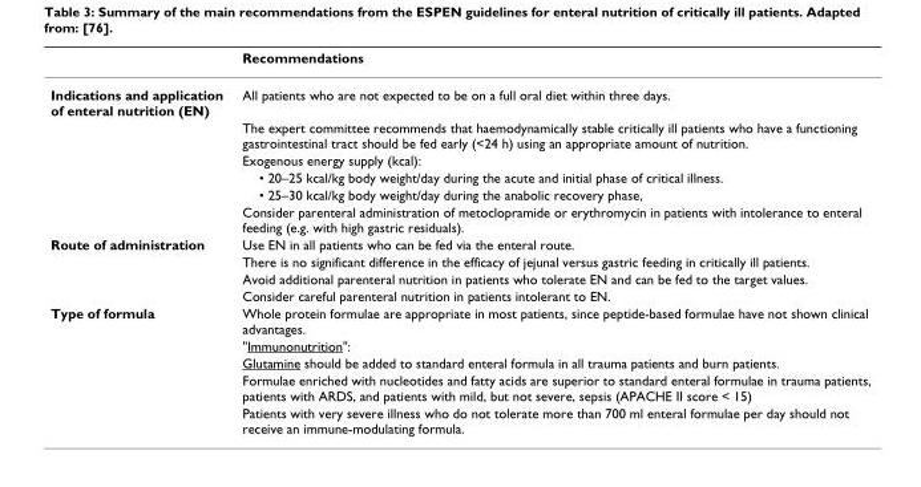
<table><thead><tr><td></td><td>Recommendations</td></tr></thead><tbody><tr><td rowspan="6">Indications and application of enteral nutrition (EN)</td><td>All patients who are not expected to be on a full oral diet within three days.</td></tr><tr><td>The expert committee recommends that haemodynamically stable critically ill patients who have a functioning gastrointestinal tract should be fed early (&lt;24 h) using an appropriate amount of nutrition.</td></tr><tr><td>Exogenous energy supply (kcal):</td></tr><tr><td>• 20–25 kcal/kg body weight/day during the acute and initial phase of critical illness.</td></tr><tr><td>• 25–30 kcal/kg body weight/day during the anabolic recovery phase,</td></tr><tr><td>Consider parenteral administration of metoclopramide or erythromycin in patients with intolerance to enteral feeding (e.g. with high gastric residuals).</td></tr><tr><td rowspan="4">Route of administration</td><td>Use EN in all patients who can be fed via the enteral route.</td></tr><tr><td>There is no significant difference in the efficacy of jejunal versus gastric feeding in critically ill patients.</td></tr><tr><td>Avoid additional parenteral nutrition in patients who tolerate EN and can be fed to the target values.</td></tr><tr><td>Consider careful parenteral nutrition in patients intolerant to EN.</td></tr><tr><td rowspan="5">Type of formula</td><td>Whole protein formulae are appropriate in most patients, since peptide-based formulae have not shown clinical advantages.</td></tr><tr><td>&quot;Immunonutrition&quot;:</td></tr><tr><td>Glutamine should be added to standard enteral formula in all trauma patients and burn patients.</td></tr><tr><td>Formulae enriched with nucleotides and fatty acids are superior to standard enteral formulae in trauma patients, patients with ARDS, and patients with mild, but not severe, sepsis (APACHE II score &lt; 15)</td></tr><tr><td>Patients with very severe illness who do not tolerate more than 700 ml enteral formulae per day should not receive an immune-modulating formula.</td></tr></tbody></table>